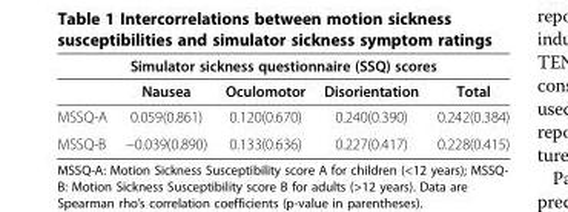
<table><thead><tr><td colspan="5">Simulator sickness questionnaire (SSQ) scores</td></tr><tr><td></td><td>Nausea</td><td>Oculomotor</td><td>Disorientation</td><td>Total</td></tr></thead><tbody><tr><td>MSSQ-A</td><td>0.059(0.861)</td><td>0.120(0.670)</td><td>0.240(0.390)</td><td>0.242(0.384)</td></tr><tr><td>MSSQ-B</td><td>−0.039(0.890)</td><td>0.133(0.636)</td><td>0.227(0.417)</td><td>0.228(0.415)</td></tr></tbody></table>